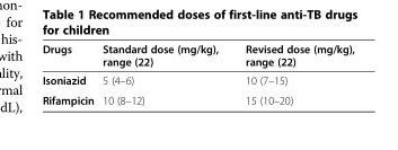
<table><thead><tr><td>Drugs</td><td>Standard dose (mg/kg), range (22)</td><td>Revised dose (mg/kg), range (22)</td></tr></thead><tbody><tr><td>Isoniazid</td><td>5 (4–6)</td><td>10 (7–15)</td></tr><tr><td>Rifampicin</td><td>10 (8–12)</td><td>15 (10–20)</td></tr></tbody></table>